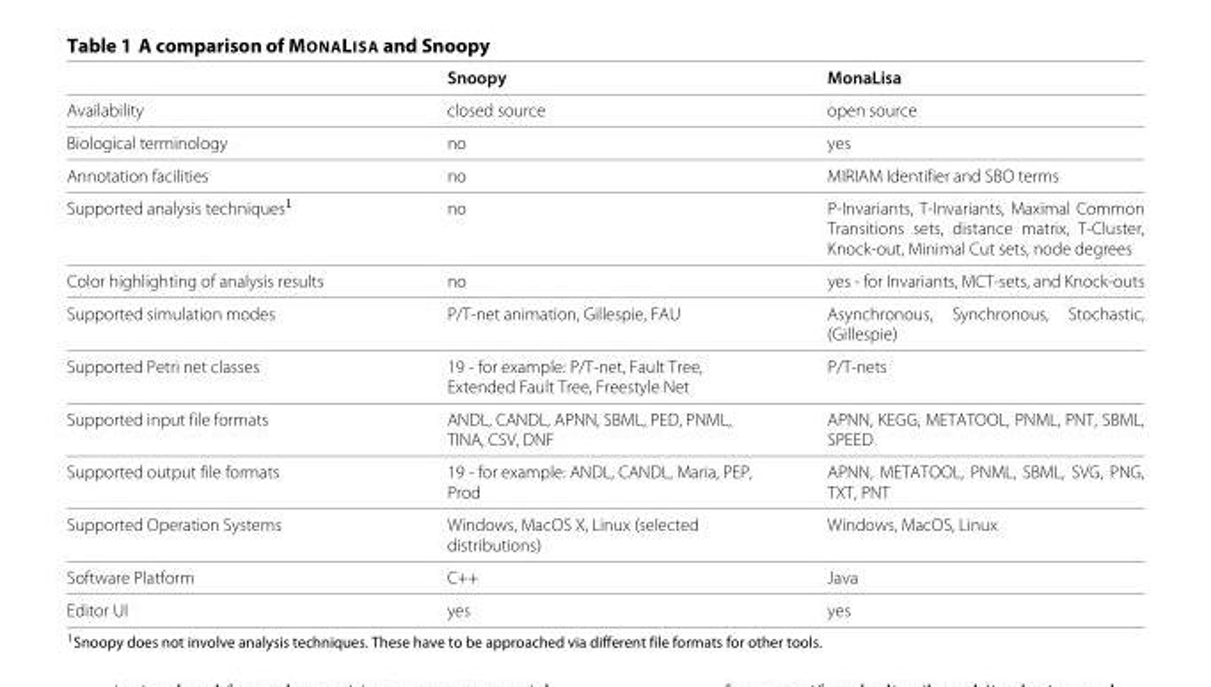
<table><thead><tr><td></td><td>Snoopy</td><td>MonaLisa</td></tr></thead><tbody><tr><td>Availability</td><td>closed source</td><td>open source</td></tr><tr><td>Biological terminology</td><td>no</td><td>yes</td></tr><tr><td>Annotation facilities</td><td>no</td><td>MIRIAM Identifier and SBO terms</td></tr><tr><td>Supported analysis techniques<sup>1</sup></td><td>no</td><td>P-Invariants, T-Invariants, Maximal Common Transitions sets, distance matrix, T-Cluster, Knock-out, Minimal Cut sets, node degrees</td></tr><tr><td>Color highlighting of analysis results</td><td>no</td><td>yes - for Invariants, MCT-sets, and Knock-outs</td></tr><tr><td>Supported simulation modes</td><td>P/T-net animation, Gillespie, FAU</td><td>Asynchronous, Synchronous, Stochastic, (Gillespie)</td></tr><tr><td>Supported Petri net classes</td><td>19 - for example: P/T-net, Fault Tree, Extended Fault Tree, Freestyle Net</td><td>P/T-nets</td></tr><tr><td>Supported input file formats</td><td>ANDL, CANDL, APNN, SBML, PED, PNML, TINA, CSV, DNF</td><td>APNN, KEGG, METATOOL, PNML, PNT, SBML, SPEED</td></tr><tr><td>Supported output file formats</td><td>19 - for example: ANDL, CANDL, Maria, PEP, Prod</td><td>APNN, METATOOL, PNML, SBML, SVG, PNG, TXT, PNT</td></tr><tr><td>Supported Operation Systems</td><td>Windows, MacOS X, Linux (selected distributions)</td><td>Windows, MacOS, Linux</td></tr><tr><td>Software Platform</td><td>C++</td><td>Java</td></tr><tr><td>Editor UI</td><td>yes</td><td>yes</td></tr></tbody></table>